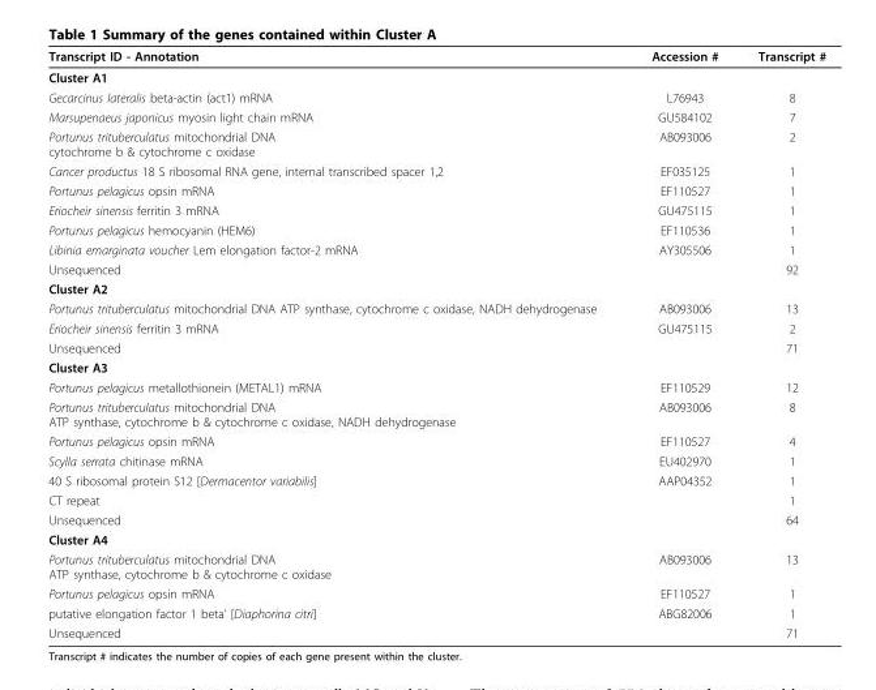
<table><thead><tr><td>Transcript ID - Annotation</td><td>Accession #</td><td>Transcript #</td></tr></thead><tbody><tr><td colspan="3">Cluster A1</td></tr><tr><td>Gecarcinus lateralis beta-actin (act1) mRNA</td><td>L76943</td><td>8</td></tr><tr><td>Marsupenaeus japonicus myosin light chain mRNA</td><td>GU584102</td><td>7</td></tr><tr><td>Portunus trituberculatus mitochondrial DNA cytochrome b &amp; cytochrome c oxidase</td><td>AB093006</td><td>2</td></tr><tr><td>Cancer productus 18 S ribosomal RNA gene, internal transcribed spacer 1,2</td><td>EF035125</td><td>1</td></tr><tr><td>Portunus pelagicus opsin mRNA</td><td>EF110527</td><td>1</td></tr><tr><td>Eriocheir sinensis ferritin 3 mRNA</td><td>GU475115</td><td>1</td></tr><tr><td>Portunus pelagicus hemocyanin (HEM6)</td><td>EF110536</td><td>1</td></tr><tr><td>Libinia emarginata voucher Lem elongation factor-2 mRNA</td><td>AY305506</td><td>1</td></tr><tr><td>Unsequenced</td><td></td><td>92</td></tr><tr><td colspan="3">Cluster A2</td></tr><tr><td>Portunus trituberculatus mitochondrial DNA ATP synthase, cytochrome c oxidase, NADH dehydrogenase</td><td>AB093006</td><td>13</td></tr><tr><td>Eriocheir sinensis ferritin 3 mRNA</td><td>GU475115</td><td>2</td></tr><tr><td>Unsequenced</td><td></td><td>71</td></tr><tr><td colspan="3">Cluster A3</td></tr><tr><td>Portunus pelagicus metallothionein (METAL1) mRNA</td><td>EF110529</td><td>12</td></tr><tr><td>Portunus trituberculatus mitochondrial DNA ATP synthase, cytochrome b &amp; cytochrome c oxidase, NADH dehydrogenase</td><td>AB093006</td><td>8</td></tr><tr><td>Portunus pelagicus opsin mRNA</td><td>EF110527</td><td>4</td></tr><tr><td>Scylla serrata chitinase mRNA</td><td>EU402970</td><td>1</td></tr><tr><td>40 S ribosomal protein S12 [Dermacentor variabilis]</td><td>AAP04352</td><td>1</td></tr><tr><td>CT repeat</td><td></td><td>1</td></tr><tr><td>Unsequenced</td><td></td><td>64</td></tr><tr><td colspan="3">Cluster A4</td></tr><tr><td>Portunus trituberculatus mitochondrial DNA ATP synthase, cytochrome b &amp; cytochrome c oxidase</td><td>AB093006</td><td>13</td></tr><tr><td>Portunus pelagicus opsin mRNA</td><td>EF110527</td><td>1</td></tr><tr><td>putative elongation factor 1 beta’ [Diaphorina citri]</td><td>ABG82006</td><td>1</td></tr><tr><td>Unsequenced</td><td></td><td>71</td></tr></tbody></table>